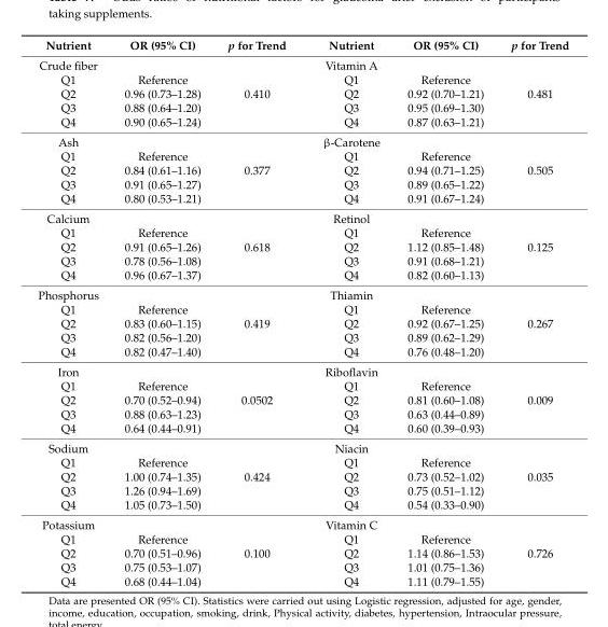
<table><thead><tr><td>Nutrient</td><td>OR (95% CI)</td><td>p for Trend</td><td>Nutrient</td><td>OR (95% CI)</td><td>p for Trend</td></tr></thead><tbody><tr><td>Crude fiber</td><td></td><td></td><td>Vitamin A</td><td></td><td></td></tr><tr><td>Q1</td><td>Reference</td><td></td><td>Q1</td><td>Reference</td><td></td></tr><tr><td>Q2</td><td>0.96 (0.73–1.28)</td><td>0.410</td><td>Q2</td><td>0.92 (0.70–1.21)</td><td>0.481</td></tr><tr><td>Q3</td><td>0.88 (0.64–1.20)</td><td></td><td>Q3</td><td>0.95 (0.69–1.30)</td><td></td></tr><tr><td>Q4</td><td>0.90 (0.65–1.24)</td><td></td><td>Q4</td><td>0.87 (0.63–1.21)</td><td></td></tr><tr><td>Ash</td><td></td><td></td><td>β-Carotene</td><td></td><td></td></tr><tr><td>Q1</td><td>Reference</td><td></td><td>Q1</td><td>Reference</td><td></td></tr><tr><td>Q2</td><td>0.84 (0.61–1.16)</td><td>0.377</td><td>Q2</td><td>0.94 (0.71–1.25)</td><td>0.505</td></tr><tr><td>Q3</td><td>0.91 (0.65–1.27)</td><td></td><td>Q3</td><td>0.89 (0.65–1.22)</td><td></td></tr><tr><td>Q4</td><td>0.80 (0.53–1.21)</td><td></td><td>Q4</td><td>0.91 (0.67–1.24)</td><td></td></tr><tr><td>Calcium</td><td></td><td></td><td>Retinol</td><td></td><td></td></tr><tr><td>Q1</td><td>Reference</td><td></td><td>Q1</td><td>Reference</td><td></td></tr><tr><td>Q2</td><td>0.91 (0.65–1.26)</td><td>0.618</td><td>Q2</td><td>1.12 (0.85–1.48)</td><td>0.125</td></tr><tr><td>Q3</td><td>0.78 (0.56–1.08)</td><td></td><td>Q3</td><td>0.91 (0.68–1.21)</td><td></td></tr><tr><td>Q4</td><td>0.96 (0.67–1.37)</td><td></td><td>Q4</td><td>0.82 (0.60–1.13)</td><td></td></tr><tr><td>Phosphorus</td><td></td><td></td><td>Thiamin</td><td></td><td></td></tr><tr><td>Q1</td><td>Reference</td><td></td><td>Q1</td><td>Reference</td><td></td></tr><tr><td>Q2</td><td>0.83 (0.60–1.15)</td><td>0.419</td><td>Q2</td><td>0.92 (0.67–1.25)</td><td>0.267</td></tr><tr><td>Q3</td><td>0.82 (0.56–1.20)</td><td></td><td>Q3</td><td>0.89 (0.62–1.29)</td><td></td></tr><tr><td>Q4</td><td>0.82 (0.47–1.40)</td><td></td><td>Q4</td><td>0.76 (0.48–1.20)</td><td></td></tr><tr><td>Iron</td><td></td><td></td><td>Riboflavin</td><td></td><td></td></tr><tr><td>Q1</td><td>Reference</td><td></td><td>Q1</td><td>Reference</td><td></td></tr><tr><td>Q2</td><td>0.70 (0.52–0.94)</td><td>0.0502</td><td>Q2</td><td>0.81 (0.60–1.08)</td><td>0.009</td></tr><tr><td>Q3</td><td>0.88 (0.63–1.23)</td><td></td><td>Q3</td><td>0.63 (0.44–0.89)</td><td></td></tr><tr><td>Q4</td><td>0.64 (0.44–0.91)</td><td></td><td>Q4</td><td>0.60 (0.39–0.93)</td><td></td></tr><tr><td>Sodium</td><td></td><td></td><td>Niacin</td><td></td><td></td></tr><tr><td>Q1</td><td>Reference</td><td></td><td>Q1</td><td>Reference</td><td></td></tr><tr><td>Q2</td><td>1.00 (0.74–1.35)</td><td>0.424</td><td>Q2</td><td>0.73 (0.52–1.02)</td><td>0.035</td></tr><tr><td>Q3</td><td>1.26 (0.94–1.69)</td><td></td><td>Q3</td><td>0.75 (0.51–1.12)</td><td></td></tr><tr><td>Q4</td><td>1.05 (0.73–1.50)</td><td></td><td>Q4</td><td>0.54 (0.33–0.90)</td><td></td></tr><tr><td>Potassium</td><td></td><td></td><td>Vitamin C</td><td></td><td></td></tr><tr><td>Q1</td><td>Reference</td><td></td><td>Q1</td><td>Reference</td><td></td></tr><tr><td>Q2</td><td>0.70 (0.51–0.96)</td><td>0.100</td><td>Q2</td><td>1.14 (0.86–1.53)</td><td>0.726</td></tr><tr><td>Q3</td><td>0.75 (0.53–1.07)</td><td></td><td>Q3</td><td>1.01 (0.75–1.36)</td><td></td></tr><tr><td>Q4</td><td>0.68 (0.44–1.04)</td><td></td><td>Q4</td><td>1.11 (0.79–1.55)</td><td></td></tr></tbody></table>